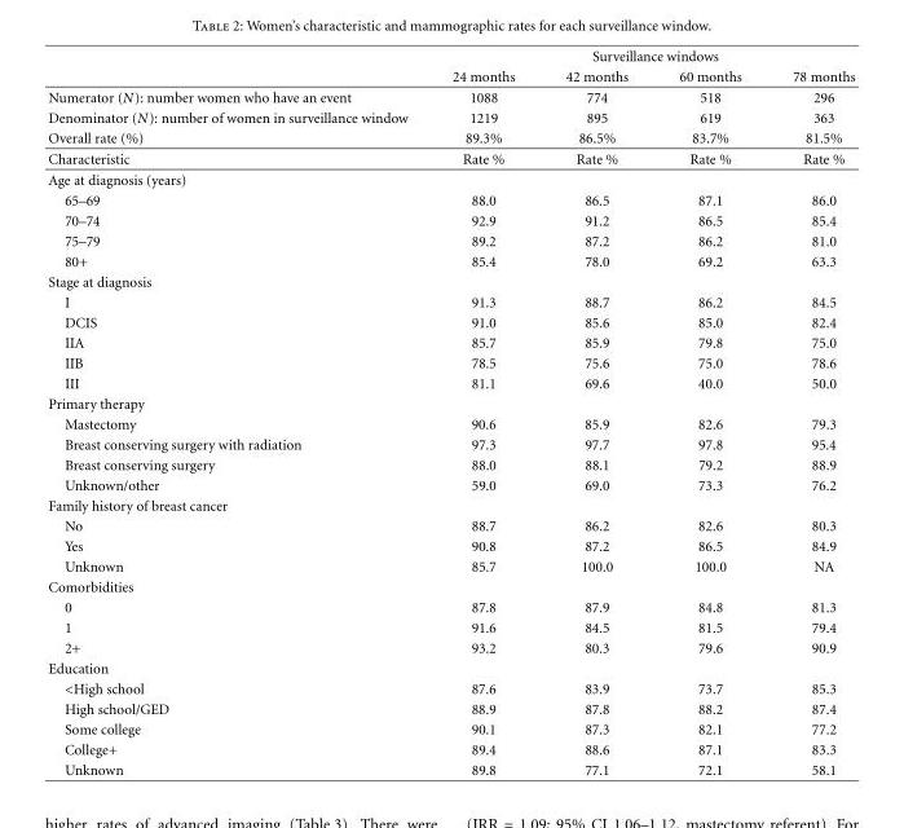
<table><thead><tr><td rowspan="2"></td><td colspan="4">Surveillance windows</td></tr><tr><td>24 months</td><td>42 months</td><td>60 months</td><td>78 months</td></tr></thead><tbody><tr><td>Numerator (N): number women who have an event</td><td>1088</td><td>774</td><td>518</td><td>296</td></tr><tr><td>Denominator (N): number of women in surveillance window</td><td>1219</td><td>895</td><td>619</td><td>363</td></tr><tr><td>Overall rate (%)</td><td>89.3%</td><td>86.5%</td><td>83.7%</td><td>81.5%</td></tr><tr><td>Characteristic</td><td>Rate %</td><td>Rate %</td><td>Rate %</td><td>Rate %</td></tr><tr><td colspan="5">Age at diagnosis (years)</td></tr><tr><td>65–69</td><td>88.0</td><td>86.5</td><td>87.1</td><td>86.0</td></tr><tr><td>70–74</td><td>92.9</td><td>91.2</td><td>86.5</td><td>85.4</td></tr><tr><td>75–79</td><td>89.2</td><td>87.2</td><td>86.2</td><td>81.0</td></tr><tr><td>80+</td><td>85.4</td><td>78.0</td><td>69.2</td><td>63.3</td></tr><tr><td colspan="5">Stage at diagnosis</td></tr><tr><td>I</td><td>91.3</td><td>88.7</td><td>86.2</td><td>84.5</td></tr><tr><td>DCIS</td><td>91.0</td><td>85.6</td><td>85.0</td><td>82.4</td></tr><tr><td>IIA</td><td>85.7</td><td>85.9</td><td>79.8</td><td>75.0</td></tr><tr><td>IIB</td><td>78.5</td><td>75.6</td><td>75.0</td><td>78.6</td></tr><tr><td>III</td><td>81.1</td><td>69.6</td><td>40.0</td><td>50.0</td></tr><tr><td colspan="5">Primary therapy</td></tr><tr><td>Mastectomy</td><td>90.6</td><td>85.9</td><td>82.6</td><td>79.3</td></tr><tr><td>Breast conserving surgery with radiation</td><td>97.3</td><td>97.7</td><td>97.8</td><td>95.4</td></tr><tr><td>Breast conserving surgery</td><td>88.0</td><td>88.1</td><td>79.2</td><td>88.9</td></tr><tr><td>Unknown/other</td><td>59.0</td><td>69.0</td><td>73.3</td><td>76.2</td></tr><tr><td colspan="5">Family history of breast cancer</td></tr><tr><td>No</td><td>88.7</td><td>86.2</td><td>82.6</td><td>80.3</td></tr><tr><td>Yes</td><td>90.8</td><td>87.2</td><td>86.5</td><td>84.9</td></tr><tr><td>Unknown</td><td>85.7</td><td>100.0</td><td>100.0</td><td>NA</td></tr><tr><td colspan="5">Comorbidities</td></tr><tr><td>0</td><td>87.8</td><td>87.9</td><td>84.8</td><td>81.3</td></tr><tr><td>1</td><td>91.6</td><td>84.5</td><td>81.5</td><td>79.4</td></tr><tr><td>2+</td><td>93.2</td><td>80.3</td><td>79.6</td><td>90.9</td></tr><tr><td colspan="5">Education</td></tr><tr><td>&lt;High school</td><td>87.6</td><td>83.9</td><td>73.7</td><td>85.3</td></tr><tr><td>High school/GED</td><td>88.9</td><td>87.8</td><td>88.2</td><td>87.4</td></tr><tr><td>Some college</td><td>90.1</td><td>87.3</td><td>82.1</td><td>77.2</td></tr><tr><td>College+</td><td>89.4</td><td>88.6</td><td>87.1</td><td>83.3</td></tr><tr><td>Unknown</td><td>89.8</td><td>77.1</td><td>72.1</td><td>58.1</td></tr></tbody></table>